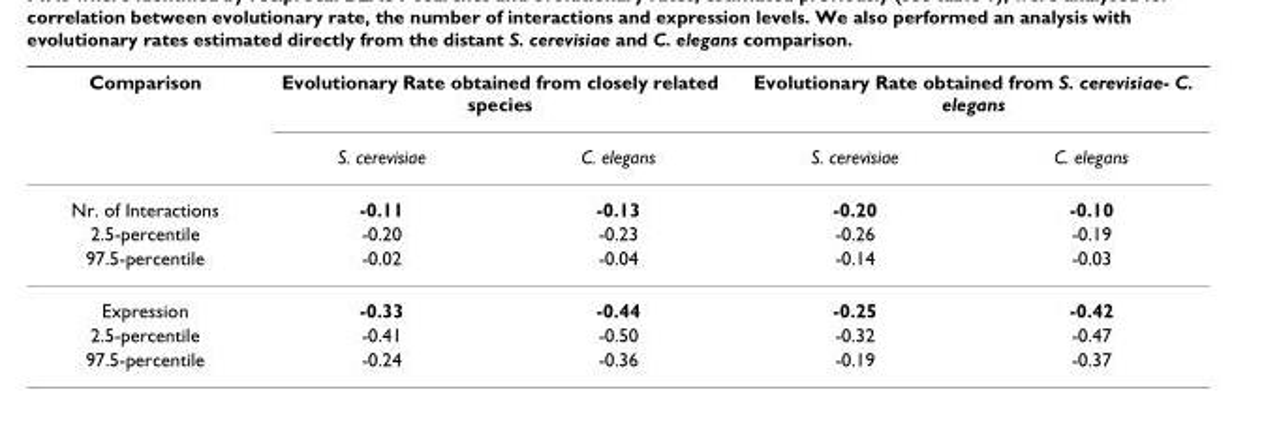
<table><thead><tr><td rowspan="2">Comparison</td><td colspan="2">Evolutionary Rate obtained from closely related species</td><td colspan="2">Evolutionary Rate obtained from S. cerevisiae- C. elegans</td></tr><tr><td>S. cerevisiae</td><td>C. elegans</td><td>S. cerevisiae</td><td>C. elegans</td></tr></thead><tbody><tr><td>Nr. of Interactions</td><td>-0.11</td><td>-0.13</td><td>-0.20</td><td>-0.10</td></tr><tr><td>2.5-percentile</td><td>-0.20</td><td>-0.23</td><td>-0.26</td><td>-0.19</td></tr><tr><td>97.5-percentile</td><td>-0.02</td><td>-0.04</td><td>-0.14</td><td>-0.03</td></tr><tr><td>Expression</td><td>-0.33</td><td>-0.44</td><td>-0.25</td><td>-0.42</td></tr><tr><td>2.5-percentile</td><td>-0.41</td><td>-0.50</td><td>-0.32</td><td>-0.47</td></tr><tr><td>97.5-percentile</td><td>-0.24</td><td>-0.36</td><td>-0.19</td><td>-0.37</td></tr></tbody></table>